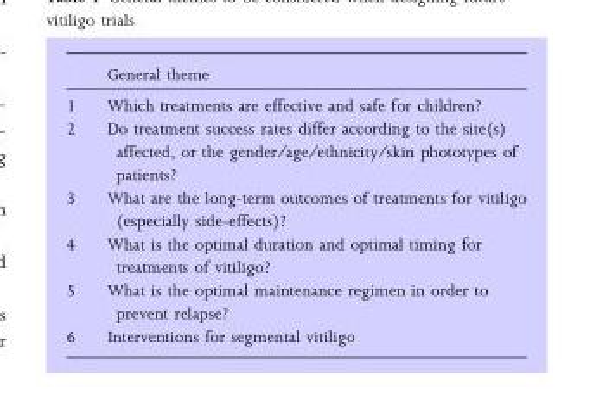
<table><thead><tr><td></td><td>General theme</td></tr></thead><tbody><tr><td>1</td><td>Which treatments are effective and safe for children?</td></tr><tr><td>2</td><td>Do treatment success rates differ according to the site(s) affected, or the gender ⁄age ⁄ethnicity ⁄skin phototypes of patients?</td></tr><tr><td>3</td><td>What are the long-term outcomes of treatments for vitiligo (especially side-effects)?</td></tr><tr><td>4</td><td>What is the optimal duration and optimal timing for treatments of vitiligo?</td></tr><tr><td>5</td><td>What is the optimal maintenance regimen in order to prevent relapse?</td></tr><tr><td>6</td><td>Interventions for segmental vitiligo</td></tr></tbody></table>